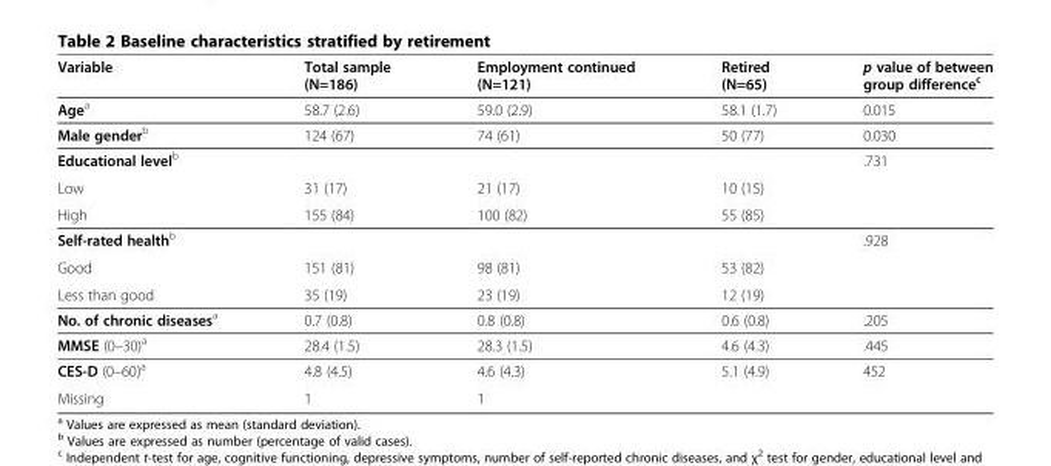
<table><thead><tr><td>Variable</td><td>Total sample (N=186)</td><td>Employment continued (N=121)</td><td>Retired (N=65)</td><td>p value of between group difference<sup>c</sup></td></tr></thead><tbody><tr><td>Age<sup>a</sup></td><td>58.7 (2.6)</td><td>59.0 (2.9)</td><td>58.1 (1.7)</td><td>0.015</td></tr><tr><td>Male gender<sup>b</sup></td><td>124 (67)</td><td>74 (61)</td><td>50 (77)</td><td>0.030</td></tr><tr><td>Educational level<sup>b</sup></td><td></td><td></td><td></td><td>.731</td></tr><tr><td>Low</td><td>31 (17)</td><td>21 (17)</td><td>10 (15)</td><td></td></tr><tr><td>High</td><td>155 (84)</td><td>100 (82)</td><td>55 (85)</td><td></td></tr><tr><td>Self-rated health<sup>b</sup></td><td></td><td></td><td></td><td>.928</td></tr><tr><td>Good</td><td>151 (81)</td><td>98 (81)</td><td>53 (82)</td><td></td></tr><tr><td>Less than good</td><td>35 (19)</td><td>23 (19)</td><td>12 (19)</td><td></td></tr><tr><td>No. of chronic diseases<sup>a</sup></td><td>0.7 (0.8)</td><td>0.8 (0.8)</td><td>0.6 (0.8)</td><td>.205</td></tr><tr><td>MMSE (0–30)<sup>a</sup></td><td>28.4 (1.5)</td><td>28.3 (1.5)</td><td>4.6 (4.3)</td><td>.445</td></tr><tr><td>CES-D (0–60)<sup>a</sup></td><td>4.8 (4.5)</td><td>4.6 (4.3)</td><td>5.1 (4.9)</td><td>452</td></tr><tr><td>Missing</td><td>1</td><td>1</td><td></td><td></td></tr></tbody></table>